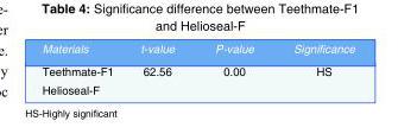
<table><tbody><tr><td>Materials</td><td>t-value</td><td>P-value</td><td>Significance</td></tr><tr><td>Teethmate-F1</td><td>62.56</td><td>0.00</td><td>HS</td></tr><tr><td>Helioseal-F</td><td></td><td></td><td></td></tr></tbody></table>